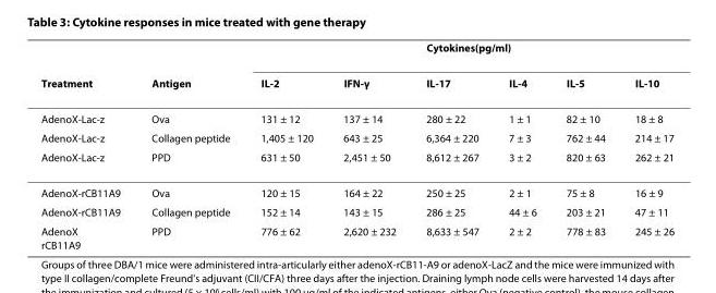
<table><thead><tr><td rowspan="2">Treatment</td><td rowspan="2">Antigen</td><td colspan="6">Cytokines(pg/ml)</td></tr><tr><td>IL-2</td><td>IFN-γ</td><td>IL-17</td><td>IL-4</td><td>IL-5</td><td>IL-10</td></tr></thead><tbody><tr><td>AdenoX-Lac-z</td><td>Ova</td><td>131 ± 12</td><td>137 ± 14</td><td>280 ± 22</td><td>1 ± 1</td><td>82 ± 10</td><td>18 ± 8</td></tr><tr><td>AdenoX-Lac-z</td><td>Collagen peptide</td><td>1,405 ± 120</td><td>643 ± 25</td><td>6,364 ± 220</td><td>7 ± 3</td><td>762 ± 44</td><td>214 ± 17</td></tr><tr><td>AdenoX-Lac-z</td><td>PPD</td><td>631 ± 50</td><td>2,451 ± 50</td><td>8,612 ± 267</td><td>3 ± 2</td><td>820 ± 63</td><td>262 ± 21</td></tr><tr><td>AdenoX-rCB11A9</td><td>Ova</td><td>120 ± 15</td><td>164 ± 22</td><td>250 ± 25</td><td>2 ± 1</td><td>75 ± 8</td><td>16 ± 9</td></tr><tr><td>AdenoX-rCB11A9</td><td>Collagen peptide</td><td>152 ± 14</td><td>143 ± 15</td><td>286 ± 25</td><td>44 ± 6</td><td>203 ± 21</td><td>47 ± 11</td></tr><tr><td>AdenoX rCB11A9</td><td>PPD</td><td>776 ± 62</td><td>2,620 ± 232</td><td>8,633 ± 547</td><td>2 ± 2</td><td>778 ± 83</td><td>245 ± 26</td></tr></tbody></table>